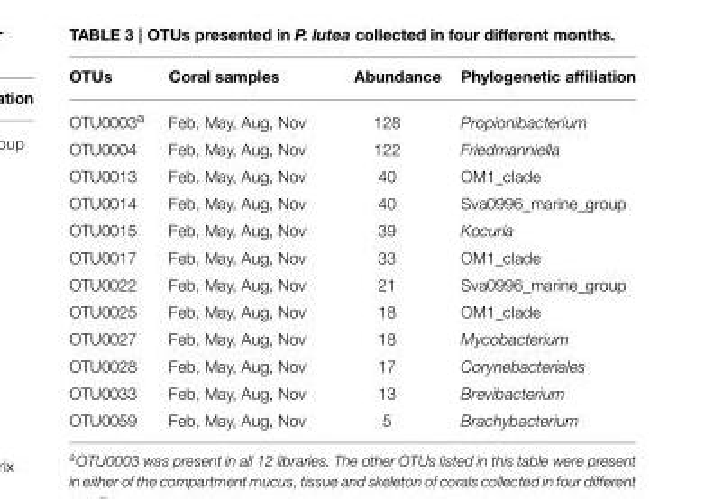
<table><thead><tr><td>OTUs</td><td>Coral samples</td><td>Abundance</td><td>Phylogenetic affiliation</td></tr></thead><tbody><tr><td>OTU0003<sup>a</sup></td><td>Feb, May, Aug, Nov</td><td>128</td><td>Propionibacterium</td></tr><tr><td>OTU0004</td><td>Feb, May, Aug, Nov</td><td>122</td><td>Friedmanniella</td></tr><tr><td>OTU0013</td><td>Feb, May, Aug, Nov</td><td>40</td><td>OM1_clade</td></tr><tr><td>OTU0014</td><td>Feb, May, Aug, Nov</td><td>40</td><td>Sva0996_marine_group</td></tr><tr><td>OTU0015</td><td>Feb, May, Aug, Nov</td><td>39</td><td>Kocuria</td></tr><tr><td>OTU0017</td><td>Feb, May, Aug, Nov</td><td>33</td><td>OM1_clade</td></tr><tr><td>OTU0022</td><td>Feb, May, Aug, Nov</td><td>21</td><td>Sva0996_marine_group</td></tr><tr><td>OTU0025</td><td>Feb, May, Aug, Nov</td><td>18</td><td>OM1_clade</td></tr><tr><td>OTU0027</td><td>Feb, May, Aug, Nov</td><td>18</td><td>Mycobacterium</td></tr><tr><td>OTU0028</td><td>Feb, May, Aug, Nov</td><td>17</td><td>Corynebacteriales</td></tr><tr><td>OTU0033</td><td>Feb, May, Aug, Nov</td><td>13</td><td>Brevibacterium</td></tr><tr><td>OTU0059</td><td>Feb, May, Aug, Nov</td><td>5</td><td>Brachybacterium</td></tr></tbody></table>